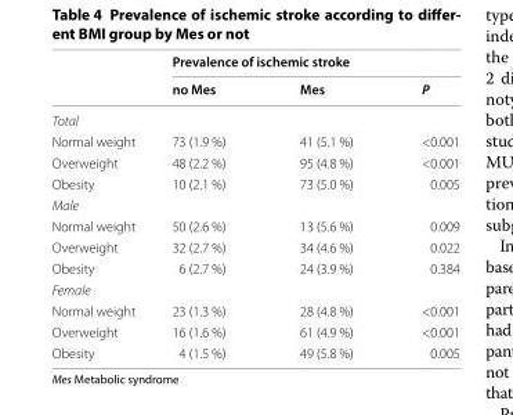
<table><thead><tr><td rowspan="2"></td><td colspan="3">Prevalence of ischemic stroke</td></tr><tr><td>no Mes</td><td>Mes</td><td>P</td></tr></thead><tbody><tr><td colspan="4">Total</td></tr><tr><td>Normal weight</td><td>73 (1.9 %)</td><td>41 (5.1 %)</td><td>&lt;0.001</td></tr><tr><td>Overweight</td><td>48 (2.2 %)</td><td>95 (4.8 %)</td><td>&lt;0.001</td></tr><tr><td>Obesity</td><td>10 (2.1 %)</td><td>73 (5.0 %)</td><td>0.005</td></tr><tr><td colspan="4">Male</td></tr><tr><td>Normal weight</td><td>50 (2.6 %)</td><td>13 (5.6 %)</td><td>0.009</td></tr><tr><td>Overweight</td><td>32 (2.7 %)</td><td>34 (4.6 %)</td><td>0.022</td></tr><tr><td>Obesity</td><td>6 (2.7 %)</td><td>24 (3.9 %)</td><td>0.384</td></tr><tr><td colspan="4">Female</td></tr><tr><td>Normal weight</td><td>23 (1.3 %)</td><td>28 (4.8 %)</td><td>&lt;0.001</td></tr><tr><td>Overweight</td><td>16 (1.6 %)</td><td>61 (4.9 %)</td><td>&lt;0.001</td></tr><tr><td>Obesity</td><td>4 (1.5 %)</td><td>49 (5.8 %)</td><td>0.005</td></tr></tbody></table>